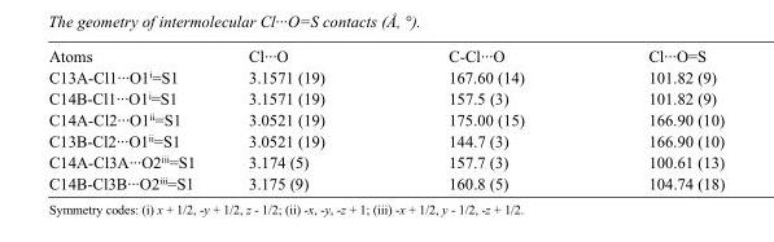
<table><tbody><tr><td>Atoms</td><td>Cl···O</td><td>C-Cl···O</td><td>Cl···O=S</td></tr><tr><td>C13A-Cl1···O1<sup>i</sup>=S1</td><td>3.1571 (19)</td><td>167.60 (14)</td><td>101.82 (9)</td></tr><tr><td>C14B-Cl1···O1<sup>i</sup>=S1</td><td>3.1571 (19)</td><td>157.5 (3)</td><td>101.82 (9)</td></tr><tr><td>C14A-Cl2···O1<sup>ii</sup>=S1</td><td>3.0521 (19)</td><td>175.00 (15)</td><td>166.90 (10)</td></tr><tr><td>C13B-Cl2···O1<sup>ii</sup>=S1</td><td>3.0521 (19)</td><td>144.7 (3)</td><td>166.90 (10)</td></tr><tr><td>C14A-Cl3A···O2<sup>iii</sup>=S1</td><td>3.174 (5)</td><td>157.7 (3)</td><td>100.61 (13)</td></tr><tr><td>C14B-Cl3B···O2<sup>iii</sup>=S1</td><td>3.175 (9)</td><td>160.8 (5)</td><td>104.74 (18)</td></tr></tbody></table>